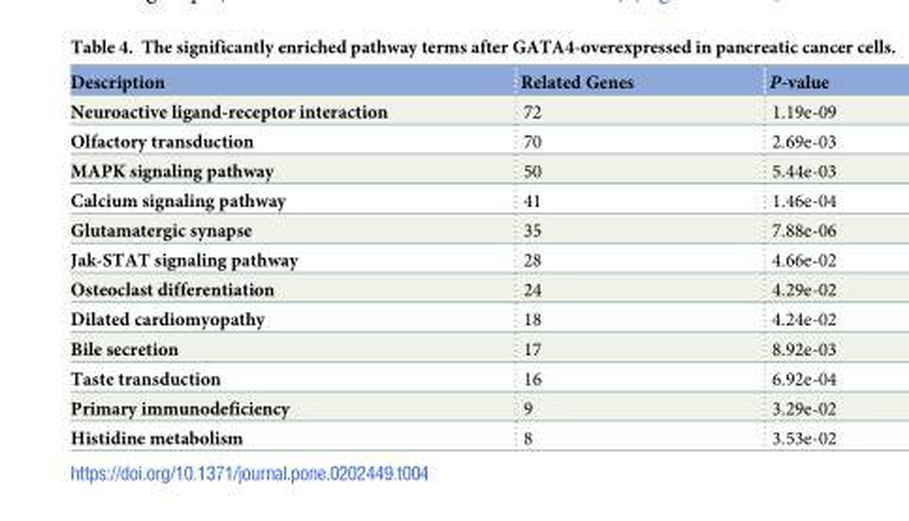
<table><thead><tr><td>Description</td><td>Related Genes</td><td>P-value</td></tr></thead><tbody><tr><td>Neuroactive ligand-receptor interaction</td><td>72</td><td>1.19e-09</td></tr><tr><td>Olfactory transduction</td><td>70</td><td>2.69e-03</td></tr><tr><td>MAPK signaling pathway</td><td>50</td><td>5.44e-03</td></tr><tr><td>Calcium signaling pathway</td><td>41</td><td>1.46e-04</td></tr><tr><td>Glutamatergic synapse</td><td>35</td><td>7.88e-06</td></tr><tr><td>Jak-STAT signaling pathway</td><td>28</td><td>4.66e-02</td></tr><tr><td>Osteoclast differentiation</td><td>24</td><td>4.29e-02</td></tr><tr><td>Dilated cardiomyopathy</td><td>18</td><td>4.24e-02</td></tr><tr><td>Bile secretion</td><td>17</td><td>8.92e-03</td></tr><tr><td>Taste transduction</td><td>16</td><td>6.92e-04</td></tr><tr><td>Primary immunodeficiency</td><td>9</td><td>3.29e-02</td></tr><tr><td>Histidine metabolism</td><td>8</td><td>3.53e-02</td></tr></tbody></table>